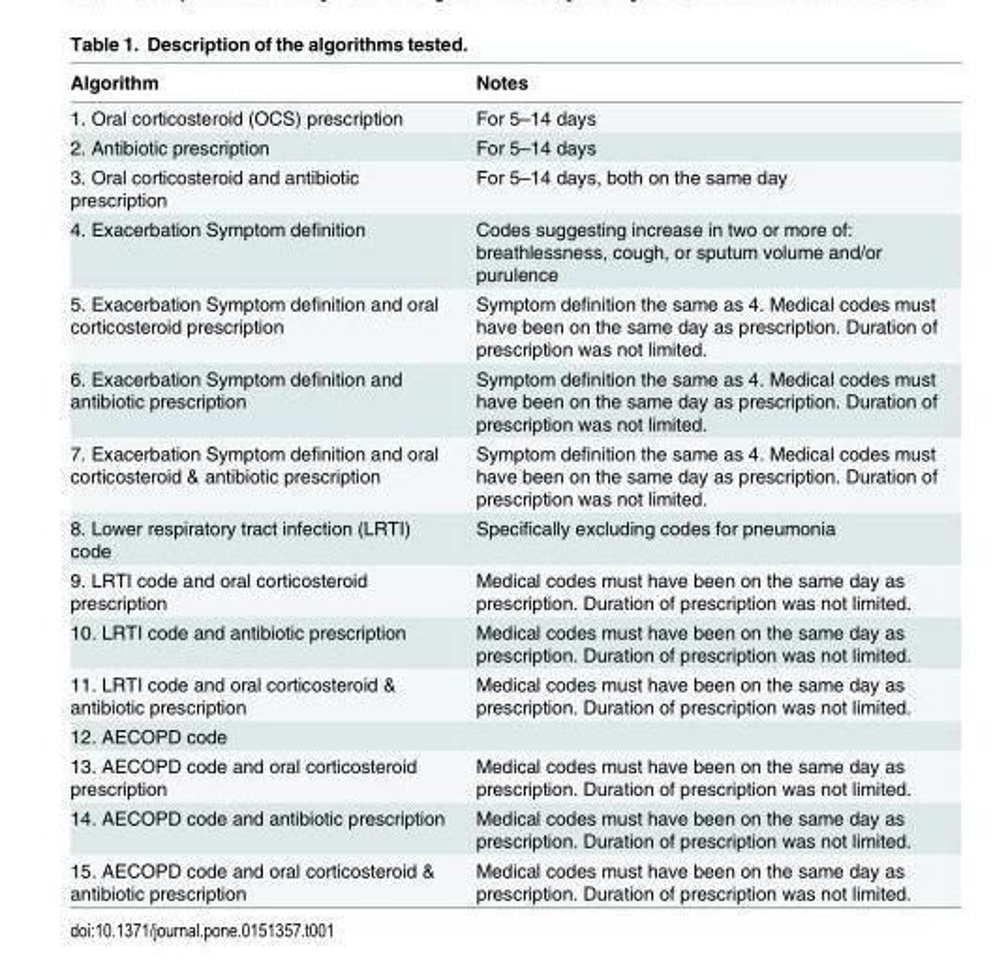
<table><thead><tr><td>Algorithm</td><td>Notes</td></tr></thead><tbody><tr><td>1. Oral corticosteroid (OCS) prescription</td><td>For 5–14 days</td></tr><tr><td>2. Antibiotic prescription</td><td>For 5–14 days</td></tr><tr><td>3. Oral corticosteroid and antibiotic prescription</td><td>For 5–14 days, both on the same day</td></tr><tr><td>4. Exacerbation Symptom definition</td><td>Codes suggesting increase in two or more of: breathlessness, cough, or sputum volume and/or purulence</td></tr><tr><td>5. Exacerbation Symptom definition and oral corticosteroid prescription</td><td>Symptom definition the same as 4. Medical codes must have been on the same day as prescription. Duration of prescription was not limited.</td></tr><tr><td>6. Exacerbation Symptom definition and antibiotic prescription</td><td>Symptom definition the same as 4. Medical codes must have been on the same day as prescription. Duration of prescription was not limited.</td></tr><tr><td>7. Exacerbation Symptom definition and oral corticosteroid &amp; antibiotic prescription</td><td>Symptom definition the same as 4. Medical codes must have been on the same day as prescription. Duration of prescription was not limited.</td></tr><tr><td>8. Lower respiratory tract infection (LRTI) code</td><td>Specifically excluding codes for pneumonia</td></tr><tr><td>9. LRTI code and oral corticosteroid prescription</td><td>Medical codes must have been on the same day as prescription. Duration of prescription was not limited.</td></tr><tr><td>10. LRTI code and antibiotic prescription</td><td>Medical codes must have been on the same day as prescription. Duration of prescription was not limited.</td></tr><tr><td>11. LRTI code and oral corticosteroid &amp; antibiotic prescription</td><td>Medical codes must have been on the same day as prescription. Duration of prescription was not limited.</td></tr><tr><td colspan="2">12. AECOPD code</td></tr><tr><td>13. AECOPD code and oral corticosteroid prescription</td><td>Medical codes must have been on the same day as prescription. Duration of prescription was not limited.</td></tr><tr><td>14. AECOPD code and antibiotic prescription</td><td>Medical codes must have been on the same day as prescription. Duration of prescription was not limited.</td></tr><tr><td>15. AECOPD code and oral corticosteroid &amp; antibiotic prescription</td><td>Medical codes must have been on the same day as prescription. Duration of prescription was not limited.</td></tr></tbody></table>